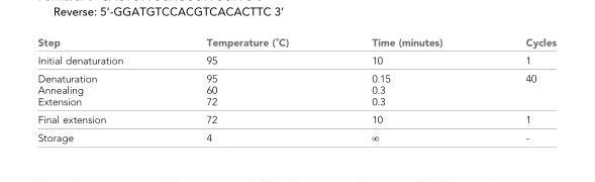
<table><thead><tr><td>Step</td><td>Temperature (˚C)</td><td>Time (minutes)</td><td>Cycles</td></tr></thead><tbody><tr><td>Initial denaturation</td><td>95</td><td>10</td><td>1</td></tr><tr><td>Denaturation Annealing Extension</td><td>95 60 72</td><td>0.15 0.3 0.3</td><td>40</td></tr><tr><td>Final extension</td><td>72</td><td>10</td><td>1</td></tr><tr><td>Storage</td><td>4</td><td>∞</td><td>-</td></tr></tbody></table>